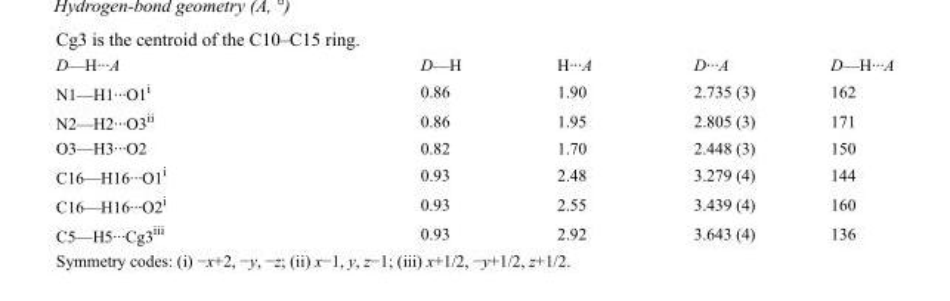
<table><tbody><tr><td>D—H···A</td><td>D—H</td><td>H···A</td><td>D···A</td><td>D—H···A</td></tr><tr><td>N1—H1···O1<sup>i</sup></td><td>0.86</td><td>1.90</td><td>2.735 (3)</td><td>162</td></tr><tr><td>N2—H2···O3<sup>ii</sup></td><td>0.86</td><td>1.95</td><td>2.805 (3)</td><td>171</td></tr><tr><td>O3—H3···O2</td><td>0.82</td><td>1.70</td><td>2.448 (3)</td><td>150</td></tr><tr><td>C16—H16···O1<sup>i</sup></td><td>0.93</td><td>2.48</td><td>3.279 (4)</td><td>144</td></tr><tr><td>C16—H16···O2<sup>i</sup></td><td>0.93</td><td>2.55</td><td>3.439 (4)</td><td>160</td></tr><tr><td>C5—H5···Cg3<sup>iii</sup></td><td>0.93</td><td>2.92</td><td>3.643 (4)</td><td>136</td></tr></tbody></table>